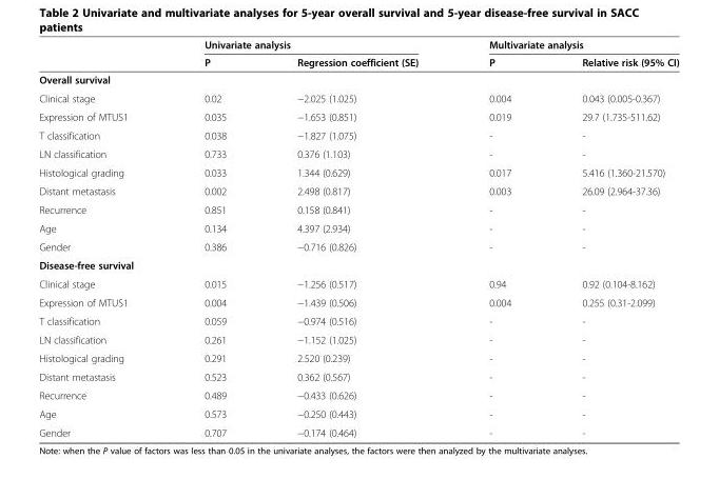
<table><thead><tr><td rowspan="2"></td><td colspan="2">Univariate analysis</td><td colspan="2">Multivariate analysis</td></tr><tr><td>P</td><td>Regression coefficient (SE)</td><td>P</td><td>Relative risk (95% CI)</td></tr></thead><tbody><tr><td colspan="5">Overall survival</td></tr><tr><td>Clinical stage</td><td>0.02</td><td>−2.025 (1.025)</td><td>0.004</td><td>0.043 (0.005-0.367)</td></tr><tr><td>Expression of MTUS1</td><td>0.035</td><td>−1.653 (0.851)</td><td>0.019</td><td>29.7 (1.735-511.62)</td></tr><tr><td>T classification</td><td>0.038</td><td>−1.827 (1.075)</td><td>-</td><td>-</td></tr><tr><td>LN classification</td><td>0.733</td><td>0.376 (1.103)</td><td>-</td><td>-</td></tr><tr><td>Histological grading</td><td>0.033</td><td>1.344 (0.629)</td><td>0.017</td><td>5.416 (1.360-21.570)</td></tr><tr><td>Distant metastasis</td><td>0.002</td><td>2.498 (0.817)</td><td>0.003</td><td>26.09 (2.964-37.36)</td></tr><tr><td>Recurrence</td><td>0.851</td><td>0.158 (0.841)</td><td>-</td><td>-</td></tr><tr><td>Age</td><td>0.134</td><td>4.397 (2.934)</td><td>-</td><td>-</td></tr><tr><td>Gender</td><td>0.386</td><td>−0.716 (0.826)</td><td>-</td><td>-</td></tr><tr><td colspan="5">Disease-free survival</td></tr><tr><td>Clinical stage</td><td>0.015</td><td>−1.256 (0.517)</td><td>0.94</td><td>0.92 (0.104-8.162)</td></tr><tr><td>Expression of MTUS1</td><td>0.004</td><td>−1.439 (0.506)</td><td>0.004</td><td>0.255 (0.31-2.099)</td></tr><tr><td>T classification</td><td>0.059</td><td>−0.974 (0.516)</td><td>-</td><td>-</td></tr><tr><td>LN classification</td><td>0.261</td><td>−1.152 (1.025)</td><td>-</td><td>-</td></tr><tr><td>Histological grading</td><td>0.291</td><td>2.520 (0.239)</td><td>-</td><td>-</td></tr><tr><td>Distant metastasis</td><td>0.523</td><td>0.362 (0.567)</td><td>-</td><td>-</td></tr><tr><td>Recurrence</td><td>0.489</td><td>−0.433 (0.626)</td><td>-</td><td>-</td></tr><tr><td>Age</td><td>0.573</td><td>−0.250 (0.443)</td><td>-</td><td>-</td></tr><tr><td>Gender</td><td>0.707</td><td>−0.174 (0.464)</td><td>-</td><td>-</td></tr></tbody></table>